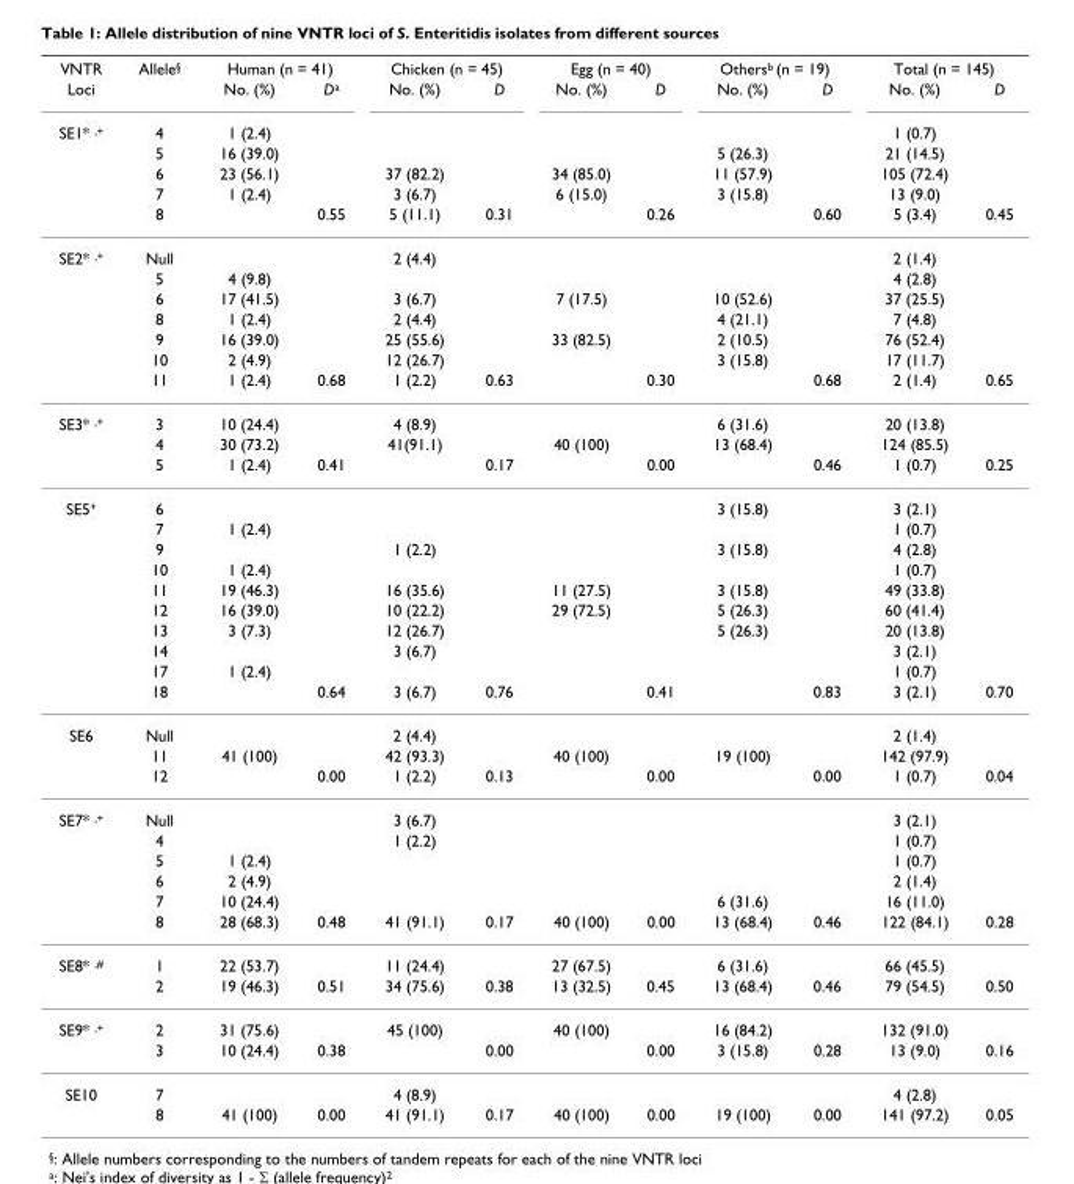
<table><thead><tr><td rowspan="7">VNTR Loci SE1* <sup>,+</sup></td><td rowspan="7">Allele§ 4 5 6 7 8</td><td colspan="2">Human (n = 41)</td><td colspan="2">Chicken (n = 45)</td><td colspan="2">Egg (n = 40)</td><td colspan="2">Others<sup>b</sup> (n = 19)</td><td colspan="2">Total (n = 145)</td></tr><tr><td rowspan="6">No. (%) 1 (2.4) 16 (39.0) 23 (56.1) 1 (2.4)</td><td rowspan="6">D<sup>a</sup> 0.55</td><td rowspan="6">No. (%) 37 (82.2) 3 (6.7) 5 (11.1)</td><td rowspan="6">D 0.31</td><td rowspan="6">No. (%) 34 (85.0) 6 (15.0)</td><td rowspan="6">D 0.26</td><td rowspan="6">No. (%) 5 (26.3) 11 (57.9) 3 (15.8)</td><td rowspan="6">D 0.60</td><td rowspan="6">No. (%) 1 (0.7) 21 (14.5) 105 (72.4) 13 (9.0) 5 (3.4)</td><td rowspan="6">D 0.45</td></tr><tr></tr><tr></tr><tr></tr><tr></tr><tr></tr></thead><tbody><tr><td rowspan="7">SE2* <sup>,+</sup></td><td>Null</td><td></td><td></td><td>2 (4.4)</td><td></td><td></td><td></td><td></td><td></td><td>2 (1.4)</td><td></td></tr><tr><td>5</td><td>4 (9.8)</td><td></td><td></td><td></td><td></td><td></td><td></td><td></td><td>4 (2.8)</td><td></td></tr><tr><td>6</td><td>17 (41.5)</td><td></td><td>3 (6.7)</td><td></td><td>7 (17.5)</td><td></td><td>10 (52.6)</td><td></td><td>37 (25.5)</td><td></td></tr><tr><td>8</td><td>1 (2.4)</td><td></td><td>2 (4.4)</td><td></td><td></td><td></td><td>4 (21.1)</td><td></td><td>7 (4.8)</td><td></td></tr><tr><td>9</td><td>16 (39.0)</td><td></td><td>25 (55.6)</td><td></td><td>33 (82.5)</td><td></td><td>2 (10.5)</td><td></td><td>76 (52.4)</td><td></td></tr><tr><td>10</td><td>2 (4.9)</td><td></td><td>12 (26.7)</td><td></td><td></td><td></td><td>3 (15.8)</td><td></td><td>17 (11.7)</td><td></td></tr><tr><td>11</td><td>1 (2.4)</td><td>0.68</td><td>1 (2.2)</td><td>0.63</td><td></td><td>0.30</td><td></td><td>0.68</td><td>2 (1.4)</td><td>0.65</td></tr><tr><td rowspan="3">SE3* <sup>,+</sup></td><td>3</td><td>10 (24.4)</td><td></td><td>4 (8.9)</td><td></td><td></td><td></td><td>6 (31.6)</td><td></td><td>20 (13.8)</td><td></td></tr><tr><td>4</td><td>30 (73.2)</td><td></td><td>41(91.1)</td><td></td><td>40 (100)</td><td></td><td>13 (68.4)</td><td></td><td>124 (85.5)</td><td></td></tr><tr><td>5</td><td>1 (2.4)</td><td>0.41</td><td></td><td>0.17</td><td></td><td>0.00</td><td></td><td>0.46</td><td>1 (0.7)</td><td>0.25</td></tr><tr><td rowspan="10">SE5<sup>+</sup></td><td>6</td><td></td><td></td><td></td><td></td><td></td><td></td><td>3 (15.8)</td><td></td><td>3 (2.1)</td><td></td></tr><tr><td>7</td><td>1 (2.4)</td><td></td><td></td><td></td><td></td><td></td><td></td><td></td><td>1 (0.7)</td><td></td></tr><tr><td>9</td><td></td><td></td><td>1 (2.2)</td><td></td><td></td><td></td><td>3 (15.8)</td><td></td><td>4 (2.8)</td><td></td></tr><tr><td>10</td><td>1 (2.4)</td><td></td><td></td><td></td><td></td><td></td><td></td><td></td><td>1 (0.7)</td><td></td></tr><tr><td>11</td><td>19 (46.3)</td><td></td><td>16 (35.6)</td><td></td><td>11 (27.5)</td><td></td><td>3 (15.8)</td><td></td><td>49 (33.8)</td><td></td></tr><tr><td>12</td><td>16 (39.0)</td><td></td><td>10 (22.2)</td><td></td><td>29 (72.5)</td><td></td><td>5 (26.3)</td><td></td><td>60 (41.4)</td><td></td></tr><tr><td>13</td><td>3 (7.3)</td><td></td><td>12 (26.7)</td><td></td><td></td><td></td><td>5 (26.3)</td><td></td><td>20 (13.8)</td><td></td></tr><tr><td>14</td><td></td><td></td><td>3 (6.7)</td><td></td><td></td><td></td><td></td><td></td><td>3 (2.1)</td><td></td></tr><tr><td>17</td><td>1 (2.4)</td><td></td><td></td><td></td><td></td><td></td><td></td><td></td><td>1 (0.7)</td><td></td></tr><tr><td>18</td><td></td><td>0.64</td><td>3 (6.7)</td><td>0.76</td><td></td><td>0.41</td><td></td><td>0.83</td><td>3 (2.1)</td><td>0.70</td></tr><tr><td rowspan="3">SE6</td><td>Null</td><td></td><td></td><td>2 (4.4)</td><td></td><td></td><td></td><td></td><td></td><td>2 (1.4)</td><td></td></tr><tr><td>11</td><td>41 (100)</td><td></td><td>42 (93.3)</td><td></td><td>40 (100)</td><td></td><td>19 (100)</td><td></td><td>142 (97.9)</td><td></td></tr><tr><td>12</td><td></td><td>0.00</td><td>1 (2.2)</td><td>0.13</td><td></td><td>0.00</td><td></td><td>0.00</td><td>1 (0.7)</td><td>0.04</td></tr><tr><td rowspan="6">SE7* ,+</td><td>Null</td><td></td><td></td><td>3 (6.7)</td><td></td><td></td><td></td><td></td><td></td><td>3 (2.1)</td><td></td></tr><tr><td>4</td><td></td><td></td><td>1 (2.2)</td><td></td><td></td><td></td><td></td><td></td><td>1 (0.7)</td><td></td></tr><tr><td>5</td><td>1 (2.4)</td><td></td><td></td><td></td><td></td><td></td><td></td><td></td><td>1 (0.7)</td><td></td></tr><tr><td>6</td><td>2 (4.9)</td><td></td><td></td><td></td><td></td><td></td><td></td><td></td><td>2 (1.4)</td><td></td></tr><tr><td>7</td><td>10 (24.4)</td><td></td><td></td><td></td><td></td><td></td><td>6 (31.6)</td><td></td><td>16 (11.0)</td><td></td></tr><tr><td>8</td><td>28 (68.3)</td><td>0.48</td><td>41 (91.1)</td><td>0.17</td><td>40 (100)</td><td>0.00</td><td>13 (68.4)</td><td>0.46</td><td>122 (84.1)</td><td>0.28</td></tr><tr><td rowspan="2">SE8* ,#</td><td>1</td><td>22 (53.7)</td><td></td><td>11 (24.4)</td><td></td><td>27 (67.5)</td><td></td><td>6 (31.6)</td><td></td><td>66 (45.5)</td><td></td></tr><tr><td>2</td><td>19 (46.3)</td><td>0.51</td><td>34 (75.6)</td><td>0.38</td><td>13 (32.5)</td><td>0.45</td><td>13 (68.4)</td><td>0.46</td><td>79 (54.5)</td><td>0.50</td></tr><tr><td rowspan="2">SE9* ,+</td><td>2</td><td>31 (75.6)</td><td></td><td>45 (100)</td><td></td><td>40 (100)</td><td></td><td>16 (84.2)</td><td></td><td>132 (91.0)</td><td></td></tr><tr><td>3</td><td>10 (24.4)</td><td>0.38</td><td></td><td>0.00</td><td></td><td>0.00</td><td>3 (15.8)</td><td>0.28</td><td>13 (9.0)</td><td>0.16</td></tr><tr><td rowspan="2">SE10</td><td>7</td><td></td><td></td><td>4 (8.9)</td><td></td><td></td><td></td><td></td><td></td><td>4 (2.8)</td><td></td></tr><tr><td>8</td><td>41 (100)</td><td>0.00</td><td>41 (91.1)</td><td>0.17</td><td>40 (100)</td><td>0.00</td><td>19 (100)</td><td>0.00</td><td>141 (97.2)</td><td>0.05</td></tr></tbody></table>